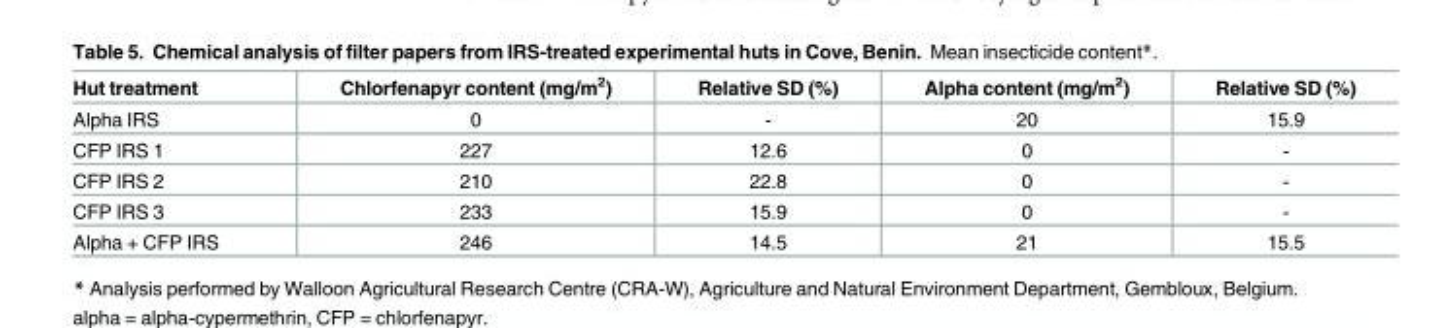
<table><thead><tr><td>Hut treatment</td><td>Chlorfenapyr content (mg/m<sup>2</sup>)</td><td>Relative SD (%)</td><td>Alpha content (mg/m<sup>2</sup>)</td><td>Relative SD (%)</td></tr></thead><tbody><tr><td>Alpha IRS</td><td>0</td><td>-</td><td>20</td><td>15.9</td></tr><tr><td>CFP IRS 1</td><td>227</td><td>12.6</td><td>0</td><td>-</td></tr><tr><td>CFP IRS 2</td><td>210</td><td>22.8</td><td>0</td><td>-</td></tr><tr><td>CFP IRS 3</td><td>233</td><td>15.9</td><td>0</td><td>-</td></tr><tr><td>Alpha + CFP IRS</td><td>246</td><td>14.5</td><td>21</td><td>15.5</td></tr></tbody></table>